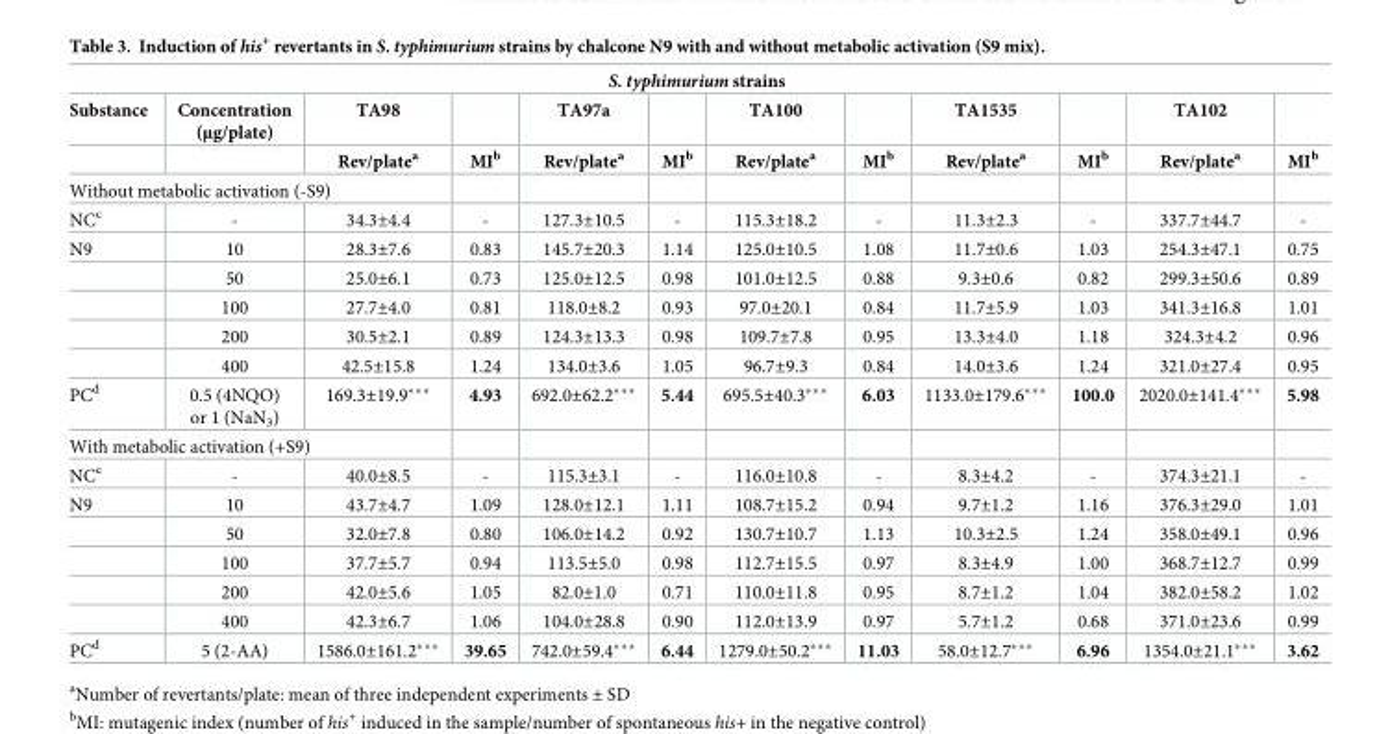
<table><thead><tr><td colspan="12">S. typhimurium strains</td></tr><tr><td rowspan="2">Substance</td><td rowspan="2">Concentration (μg/plate)</td><td rowspan="2">TA98 Rev/plate<sup>a</sup></td><td rowspan="2">MI<sup>b</sup></td><td rowspan="2">TA97a Rev/plate<sup>a</sup></td><td rowspan="2">MI<sup>b</sup></td><td rowspan="2">TA100 Rev/plate<sup>a</sup></td><td rowspan="2">MI<sup>b</sup></td><td rowspan="2">TA1535 Rev/plate<sup>a</sup></td><td rowspan="2">MI<sup>b</sup></td><td rowspan="2">TA102 Rev/plate<sup>a</sup></td><td rowspan="2">MI<sup>b</sup></td></tr><tr></tr></thead><tbody><tr><td colspan="12">Without metabolic activation (-S9)</td></tr><tr><td>NC<sup>c</sup></td><td>-</td><td>34.3±4.4</td><td>-</td><td>127.3±10.5</td><td>-</td><td>115.3±18.2</td><td>-</td><td>11.3±2.3</td><td>-</td><td>337.7±44.7</td><td>-</td></tr><tr><td rowspan="5">N9</td><td>10</td><td>28.3±7.6</td><td>0.83</td><td>145.7±20.3</td><td>1.14</td><td>125.0±10.5</td><td>1.08</td><td>11.7±0.6</td><td>1.03</td><td>254.3±47.1</td><td>0.75</td></tr><tr><td>50</td><td>25.0±6.1</td><td>0.73</td><td>125.0±12.5</td><td>0.98</td><td>101.0±12.5</td><td>0.88</td><td>9.3±0.6</td><td>0.82</td><td>299.3±50.6</td><td>0.89</td></tr><tr><td>100</td><td>27.7±4.0</td><td>0.81</td><td>118.0±8.2</td><td>0.93</td><td>97.0±20.1</td><td>0.84</td><td>11.7±5.9</td><td>1.03</td><td>341.3±16.8</td><td>1.01</td></tr><tr><td>200</td><td>30.5±2.1</td><td>0.89</td><td>124.3±13.3</td><td>0.98</td><td>109.7±7.8</td><td>0.95</td><td>13.3±4.0</td><td>1.18</td><td>324.3±4.2</td><td>0.96</td></tr><tr><td>400</td><td>42.5±15.8</td><td>1.24</td><td>134.0±3.6</td><td>1.05</td><td>96.7±9.3</td><td>0.84</td><td>14.0±3.6</td><td>1.24</td><td>321.0±27.4</td><td>0.95</td></tr><tr><td>PC<sup>d</sup></td><td>0.5 (4NQO) or 1 (NaN<sub>3</sub>)</td><td>169.3±19.9***</td><td>4.93</td><td>692.0±62.2***</td><td>5.44</td><td>695.5±40.3***</td><td>6.03</td><td>1133.0±179.6***</td><td>100.0</td><td>2020.0±141.4***</td><td>5.98</td></tr><tr><td colspan="12">With metabolic activation (+S9)</td></tr><tr><td>NC<sup>c</sup></td><td>-</td><td>40.0±8.5</td><td>-</td><td>115.3±3.1</td><td>-</td><td>116.0±10.8</td><td>-</td><td>8.3±4.2</td><td>-</td><td>374.3±21.1</td><td>-</td></tr><tr><td rowspan="5">N9</td><td>10</td><td>43.7±4.7</td><td>1.09</td><td>128.0±12.1</td><td>1.11</td><td>108.7±15.2</td><td>0.94</td><td>9.7±1.2</td><td>1.16</td><td>376.3±29.0</td><td>1.01</td></tr><tr><td>50</td><td>32.0±7.8</td><td>0.80</td><td>106.0±14.2</td><td>0.92</td><td>130.7±10.7</td><td>1.13</td><td>10.3±2.5</td><td>1.24</td><td>358.0±49.1</td><td>0.96</td></tr><tr><td>100</td><td>37.7±5.7</td><td>0.94</td><td>113.5±5.0</td><td>0.98</td><td>112.7±15.5</td><td>0.97</td><td>8.3±4.9</td><td>1.00</td><td>368.7±12.7</td><td>0.99</td></tr><tr><td>200</td><td>42.0±5.6</td><td>1.05</td><td>82.0±1.0</td><td>0.71</td><td>110.0±11.8</td><td>0.95</td><td>8.7±1.2</td><td>1.04</td><td>382.0±58.2</td><td>1.02</td></tr><tr><td>400</td><td>42.3±6.7</td><td>1.06</td><td>104.0±28.8</td><td>0.90</td><td>112.0±13.9</td><td>0.97</td><td>5.7±1.2</td><td>0.68</td><td>371.0±23.6</td><td>0.99</td></tr><tr><td>PC<sup>d</sup></td><td>5 (2-AA)</td><td>1586.0±161.2***</td><td>39.65</td><td>742.0±59.4***</td><td>6.44</td><td>1279.0±50.2***</td><td>11.03</td><td>58.0±12.7***</td><td>6.96</td><td>1354.0±21.1***</td><td>3.62</td></tr></tbody></table>